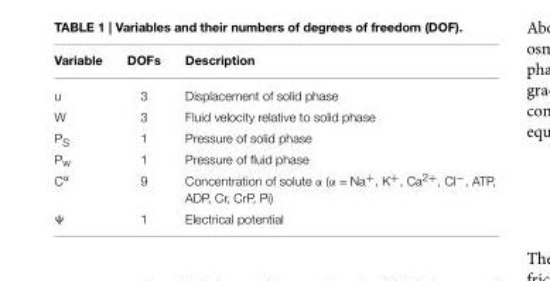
<table><thead><tr><td>Variable</td><td>DOFs</td><td>Description</td></tr></thead><tbody><tr><td>u</td><td>3</td><td>Displacement of solid phase</td></tr><tr><td>W</td><td>3</td><td>Fluid velocity relative to solid phase</td></tr><tr><td>P<sub>S</sub></td><td>1</td><td>Pressure of solid phase</td></tr><tr><td>P<sub>w</sub></td><td>1</td><td>Pressure of fluid phase</td></tr><tr><td>C<sup>α</sup></td><td>9</td><td>Concentration of solute α (α = Na<sup>+</sup>, K<sup>+</sup>, Ca<sup>2+</sup>, Cl<sup>−</sup>, ATP, ADP, Cr, CrP, Pi)</td></tr><tr><td>Ψ</td><td>1</td><td>Electrical potential</td></tr></tbody></table>